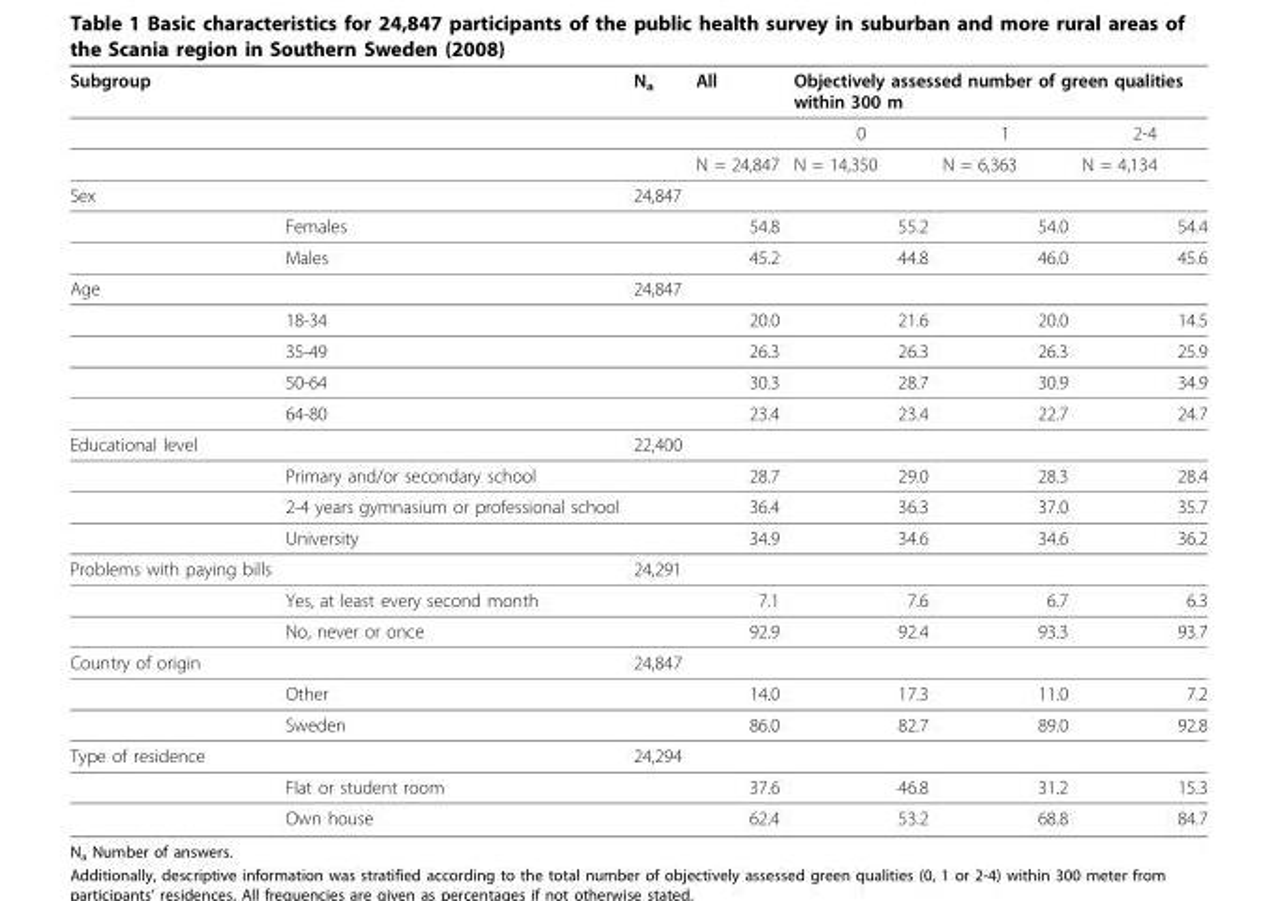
<table><thead><tr><td rowspan="2">Subgroup</td><td rowspan="2"></td><td rowspan="2">N<sub>a</sub></td><td rowspan="2">All</td><td colspan="3">Objectively assessed number of green qualities within 300 m</td></tr><tr><td>0</td><td>1</td><td>2-4</td></tr></thead><tbody><tr><td></td><td></td><td></td><td>N = 24,847</td><td>N = 14,350</td><td>N = 6,363</td><td>N = 4,134</td></tr><tr><td rowspan="3">Sex</td><td></td><td>24,847</td><td></td><td></td><td></td><td></td></tr><tr><td>Females</td><td></td><td>54.8</td><td>55.2</td><td>54.0</td><td>54.4</td></tr><tr><td>Males</td><td></td><td>45.2</td><td>44.8</td><td>46.0</td><td>45.6</td></tr><tr><td rowspan="5">Age</td><td></td><td>24,847</td><td></td><td></td><td></td><td></td></tr><tr><td>18-34</td><td></td><td>20.0</td><td>21.6</td><td>20.0</td><td>14.5</td></tr><tr><td>35-49</td><td></td><td>26.3</td><td>26.3</td><td>26.3</td><td>25.9</td></tr><tr><td>50-64</td><td></td><td>30.3</td><td>28.7</td><td>30.9</td><td>34.9</td></tr><tr><td>64-80</td><td></td><td>23.4</td><td>23.4</td><td>22.7</td><td>24.7</td></tr><tr><td rowspan="4">Educational level</td><td></td><td>22,400</td><td></td><td></td><td></td><td></td></tr><tr><td>Primary and/or secondary school</td><td></td><td>28.7</td><td>29.0</td><td>28.3</td><td>28.4</td></tr><tr><td>2-4 years gymnasium or professional school</td><td></td><td>36.4</td><td>36.3</td><td>37.0</td><td>35.7</td></tr><tr><td>University</td><td></td><td>34.9</td><td>34.6</td><td>34.6</td><td>36.2</td></tr><tr><td rowspan="3">Problems with paying bills</td><td></td><td>24,291</td><td></td><td></td><td></td><td></td></tr><tr><td>Yes, at least every second month</td><td></td><td>7.1</td><td>7.6</td><td>6.7</td><td>6.3</td></tr><tr><td>No, never or once</td><td></td><td>92.9</td><td>92.4</td><td>93.3</td><td>93.7</td></tr><tr><td rowspan="3">Country of origin</td><td></td><td>24,847</td><td></td><td></td><td></td><td></td></tr><tr><td>Other</td><td></td><td>14.0</td><td>17.3</td><td>11.0</td><td>7.2</td></tr><tr><td>Sweden</td><td></td><td>86.0</td><td>82.7</td><td>89.0</td><td>92.8</td></tr><tr><td rowspan="3">Type of residence</td><td></td><td>24,294</td><td></td><td></td><td></td><td></td></tr><tr><td>Flat or student room</td><td></td><td>37.6</td><td>46.8</td><td>31.2</td><td>15.3</td></tr><tr><td>Own house</td><td></td><td>62.4</td><td>53.2</td><td>68.8</td><td>84.7</td></tr></tbody></table>